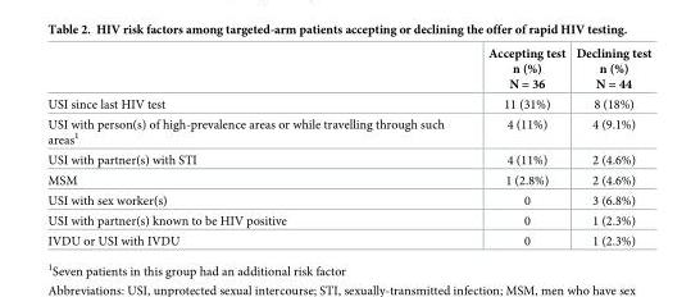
<table><thead><tr><td></td><td>Accepting test n (%) N = 36</td><td>Declining test n (%) N = 44</td></tr></thead><tbody><tr><td>USI since last HIV test</td><td>11 (31%)</td><td>8 (18%)</td></tr><tr><td>USI with person(s) of high-prevalence areas or while travelling through such areas<sup>1</sup></td><td>4 (11%)</td><td>4 (9.1%)</td></tr><tr><td>USI with partner(s) with STI</td><td>4 (11%)</td><td>2 (4.6%)</td></tr><tr><td>MSM</td><td>1 (2.8%)</td><td>2 (4.6%)</td></tr><tr><td>USI with sex worker(s)</td><td>0</td><td>3 (6.8%)</td></tr><tr><td>USI with partner(s) known to be HIV positive</td><td>0</td><td>1 (2.3%)</td></tr><tr><td>IVDU or USI with IVDU</td><td>0</td><td>1 (2.3%)</td></tr></tbody></table>